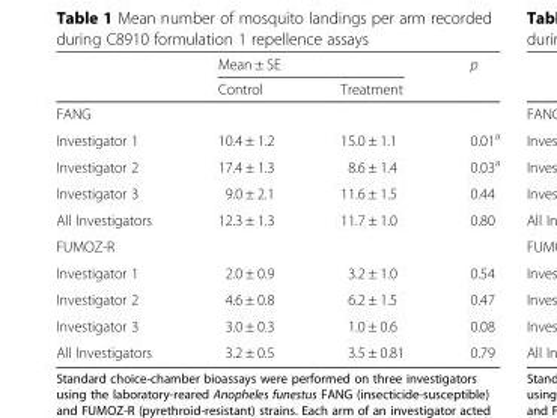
<table><thead><tr><td rowspan="2"></td><td colspan="2">Mean ± SE</td><td rowspan="2">p</td></tr><tr><td>Control</td><td>Treatment</td></tr></thead><tbody><tr><td colspan="4">FANG</td></tr><tr><td>Investigator 1</td><td>10.4 ± 1.2</td><td>15.0 ± 1.1</td><td>0.01<sup>a</sup></td></tr><tr><td>Investigator 2</td><td>17.4 ± 1.3</td><td>8.6 ± 1.4</td><td>0.03<sup>a</sup></td></tr><tr><td>Investigator 3</td><td>9.0 ± 2.1</td><td>11.6 ± 1.5</td><td>0.44</td></tr><tr><td>All Investigators</td><td>12.3 ± 1.3</td><td>11.7 ± 1.0</td><td>0.80</td></tr><tr><td colspan="4">FUMOZ-R</td></tr><tr><td>Investigator 1</td><td>2.0 ± 0.9</td><td>3.2 ± 1.0</td><td>0.54</td></tr><tr><td>Investigator 2</td><td>4.6 ± 0.8</td><td>6.2 ± 1.5</td><td>0.47</td></tr><tr><td>Investigator 3</td><td>3.0 ± 0.3</td><td>1.0 ± 0.6</td><td>0.08</td></tr><tr><td>All Investigators</td><td>3.2 ± 0.5</td><td>3.5 ± 0.81</td><td>0.79</td></tr></tbody></table>